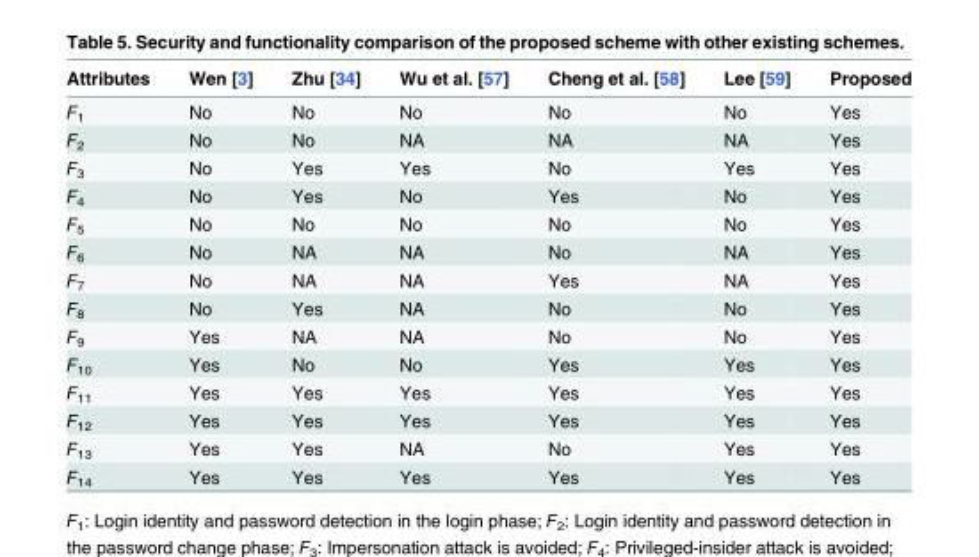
<table><thead><tr><td>Attributes</td><td>Wen [3]</td><td>Zhu [34]</td><td>Wu et al. [57]</td><td>Cheng et al. [58]</td><td>Lee [59]</td><td>Proposed</td></tr></thead><tbody><tr><td>F<sub>1</sub></td><td>No</td><td>No</td><td>No</td><td>No</td><td>No</td><td>Yes</td></tr><tr><td>F<sub>2</sub></td><td>No</td><td>No</td><td>NA</td><td>NA</td><td>NA</td><td>Yes</td></tr><tr><td>F<sub>3</sub></td><td>No</td><td>Yes</td><td>Yes</td><td>No</td><td>Yes</td><td>Yes</td></tr><tr><td>F<sub>4</sub></td><td>No</td><td>Yes</td><td>No</td><td>Yes</td><td>No</td><td>Yes</td></tr><tr><td>F<sub>5</sub></td><td>No</td><td>No</td><td>No</td><td>No</td><td>No</td><td>Yes</td></tr><tr><td>F<sub>6</sub></td><td>No</td><td>NA</td><td>NA</td><td>No</td><td>NA</td><td>Yes</td></tr><tr><td>F<sub>7</sub></td><td>No</td><td>NA</td><td>NA</td><td>Yes</td><td>NA</td><td>Yes</td></tr><tr><td>F<sub>8</sub></td><td>No</td><td>Yes</td><td>NA</td><td>No</td><td>No</td><td>Yes</td></tr><tr><td>F<sub>9</sub></td><td>Yes</td><td>NA</td><td>NA</td><td>No</td><td>No</td><td>Yes</td></tr><tr><td>F<sub>10</sub></td><td>Yes</td><td>No</td><td>No</td><td>Yes</td><td>Yes</td><td>Yes</td></tr><tr><td>F<sub>11</sub></td><td>Yes</td><td>Yes</td><td>Yes</td><td>Yes</td><td>Yes</td><td>Yes</td></tr><tr><td>F<sub>12</sub></td><td>Yes</td><td>Yes</td><td>Yes</td><td>Yes</td><td>Yes</td><td>Yes</td></tr><tr><td>F<sub>13</sub></td><td>Yes</td><td>Yes</td><td>NA</td><td>No</td><td>Yes</td><td>Yes</td></tr><tr><td>F<sub>14</sub></td><td>Yes</td><td>Yes</td><td>Yes</td><td>Yes</td><td>Yes</td><td>Yes</td></tr></tbody></table>